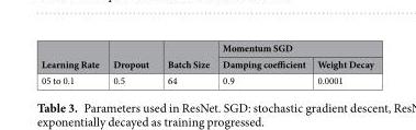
<table><thead><tr><td rowspan="2">Learning Rate</td><td rowspan="2">Dropout</td><td rowspan="2">Batch Size</td><td colspan="2">Momentum SGD</td></tr><tr><td>Damping coefficient</td><td>Weight Decay</td></tr></thead><tbody><tr><td>05 to 0.1</td><td>0.5</td><td>64</td><td>0.9</td><td>0.0001</td></tr></tbody></table>